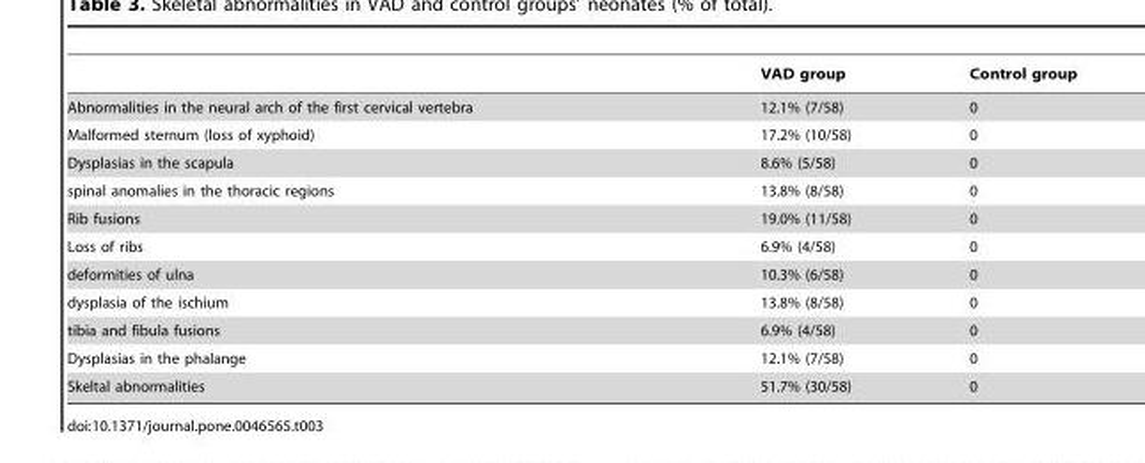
<table><thead><tr><td></td><td>VAD group</td><td>Control group</td></tr></thead><tbody><tr><td>Abnormalities in the neural arch of the first cervical vertebra</td><td>12.1% (7/58)</td><td>0</td></tr><tr><td>Malformed sternum (loss of xyphoid)</td><td>17.2% (10/58)</td><td>0</td></tr><tr><td>Dysplasias in the scapula</td><td>8.6% (5/58)</td><td>0</td></tr><tr><td>spinal anomalies in the thoracic regions</td><td>13.8% (8/58)</td><td>0</td></tr><tr><td>Rib fusions</td><td>19.0% (11/58)</td><td>0</td></tr><tr><td>Loss of ribs</td><td>6.9% (4/58)</td><td>0</td></tr><tr><td>deformities of ulna</td><td>10.3% (6/58)</td><td>0</td></tr><tr><td>dysplasia of the ischium</td><td>13.8% (8/58)</td><td>0</td></tr><tr><td>tibia and fibula fusions</td><td>6.9% (4/58)</td><td>0</td></tr><tr><td>Dysplasias in the phalange</td><td>12.1% (7/58)</td><td>0</td></tr><tr><td>Skeltal abnormalities</td><td>51.7% (30/58)</td><td>0</td></tr></tbody></table>